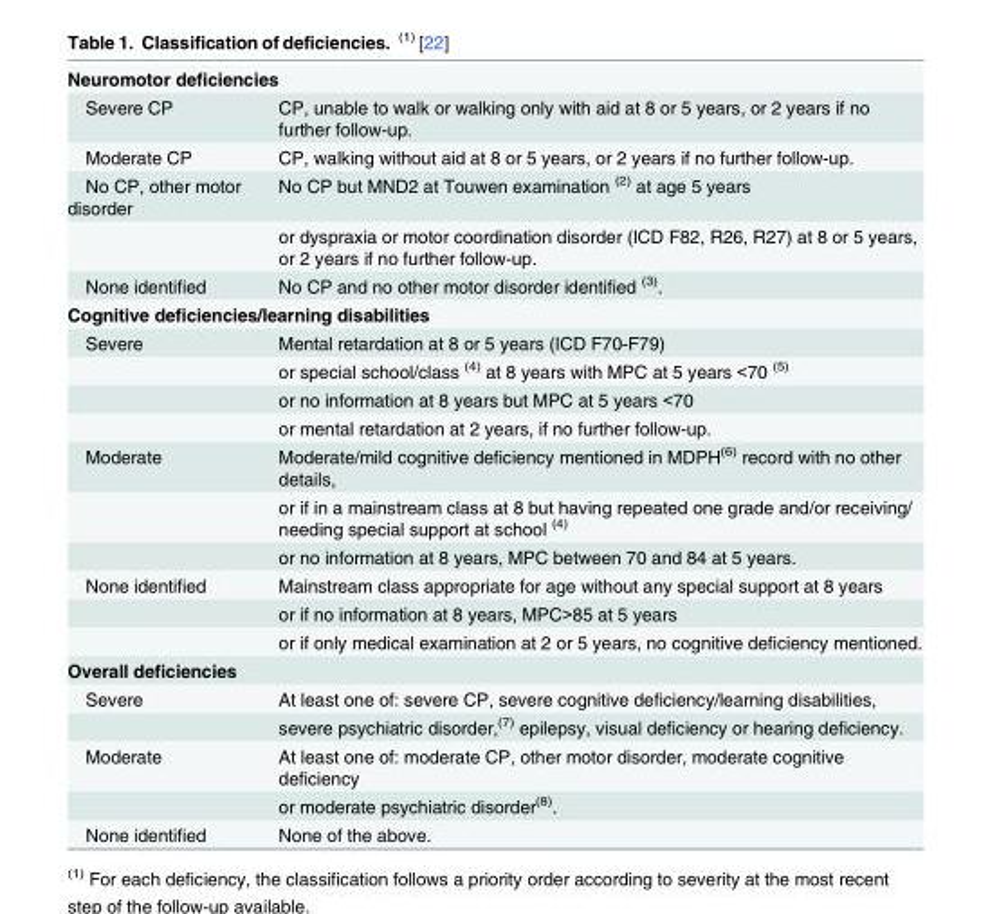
<table><tbody><tr><td colspan="2">Neuromotor deficiencies</td></tr><tr><td>Severe CP</td><td>CP, unable to walk or walking only with aid at 8 or 5 years, or 2 years if no further follow-up.</td></tr><tr><td>Moderate CP</td><td>CP, walking without aid at 8 or 5 years, or 2 years if no further follow-up.</td></tr><tr><td rowspan="2">No CP, other motor disorder</td><td>No CP but MND2 at Touwen examination <sup>(2)</sup> at age 5 years</td></tr><tr><td>or dyspraxia or motor coordination disorder (ICD F82, R26, R27) at 8 or 5 years, or 2 years if no further follow-up.</td></tr><tr><td>None identified</td><td>No CP and no other motor disorder identified <sup>(3)</sup>.</td></tr><tr><td colspan="2">Cognitive deficiencies/learning disabilities</td></tr><tr><td rowspan="4">Severe</td><td>Mental retardation at 8 or 5 years (ICD F70-F79)</td></tr><tr><td>or special school/class <sup>(4)</sup> at 8 years with MPC at 5 years &lt;70 <sup>(5)</sup></td></tr><tr><td>or no information at 8 years but MPC at 5 years &lt;70</td></tr><tr><td>or mental retardation at 2 years, if no further follow-up.</td></tr><tr><td rowspan="3">Moderate</td><td>Moderate/mild cognitive deficiency mentioned in MDPH<sup>(6)</sup> record with no other details,</td></tr><tr><td>or if in a mainstream class at 8 but having repeated one grade and/or receiving/ needing special support at school <sup>(4)</sup></td></tr><tr><td>or no information at 8 years, MPC between 70 and 84 at 5 years.</td></tr><tr><td rowspan="3">None identified</td><td>Mainstream class appropriate for age without any special support at 8 years</td></tr><tr><td>or if no information at 8 years, MPC&gt;85 at 5 years</td></tr><tr><td>or if only medical examination at 2 or 5 years, no cognitive deficiency mentioned.</td></tr><tr><td colspan="2">Overall deficiencies</td></tr><tr><td rowspan="2">Severe</td><td>At least one of: severe CP, severe cognitive deficiency/learning disabilities,</td></tr><tr><td>severe psychiatric disorder,<sup>(7)</sup> epilepsy, visual deficiency or hearing deficiency.</td></tr><tr><td rowspan="2">Moderate</td><td>At least one of: moderate CP, other motor disorder, moderate cognitive deficiency</td></tr><tr><td>or moderate psychiatric disorder<sup>(8)</sup>.</td></tr><tr><td>None identified</td><td>None of the above.</td></tr></tbody></table>